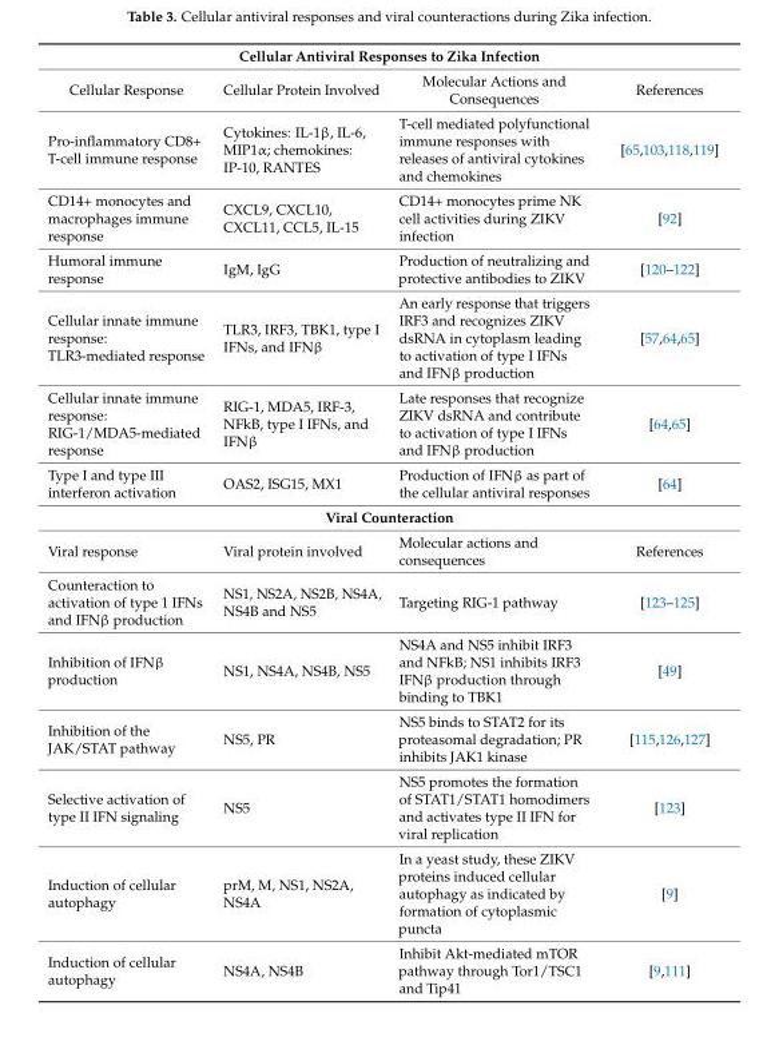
<table><tbody><tr><td colspan="4">Cellular Antiviral Responses to Zika Infection</td></tr><tr><td>Cellular Response</td><td>Cellular Protein Involved</td><td>Molecular Actions and Consequences</td><td>References</td></tr><tr><td>Pro-inflammatory CD8+ T-cell immune response</td><td>Cytokines: IL-1β, IL-6, MIP1α; chemokines: IP-10, RANTES</td><td>T-cell mediated polyfunctional immune responses with releases of antiviral cytokines and chemokines</td><td>[65,103,118,119]</td></tr><tr><td>CD14+ monocytes and macrophages immune response</td><td>CXCL9, CXCL10, CXCL11, CCL5, IL-15</td><td>CD14+ monocytes prime NK cell activities during ZIKV infection</td><td>[92]</td></tr><tr><td>Humoral immune response</td><td>IgM, IgG</td><td>Production of neutralizing and protective antibodies to ZIKV</td><td>[120–122]</td></tr><tr><td>Cellular innate immune response: TLR3-mediated response</td><td>TLR3, IRF3, TBK1, type I IFNs, and IFNβ</td><td>An early response that triggers IRF3 and recognizes ZIKV dsRNA in cytoplasm leading to activation of type I IFNs and IFNβ production</td><td>[57,64,65]</td></tr><tr><td>Cellular innate immune response: RIG-1/MDA5-mediated response</td><td>RIG-1, MDA5, IRF-3, NFkB, type I IFNs, and IFNβ</td><td>Late responses that recognize ZIKV dsRNA and contribute to activation of type I IFNs and IFNβ production</td><td>[64,65]</td></tr><tr><td>Type I and type III interferon activation</td><td>OAS2, ISG15, MX1</td><td>Production of IFNβ as part of the cellular antiviral responses</td><td>[64]</td></tr><tr><td colspan="4">Viral Counteraction</td></tr><tr><td>Viral response</td><td>Viral protein involved</td><td>Molecular actions and consequences</td><td>References</td></tr><tr><td>Counteraction to activation of type 1 IFNs and IFNβ production</td><td>NS1, NS2A, NS2B, NS4A, NS4B and NS5</td><td>Targeting RIG-1 pathway</td><td>[123–125]</td></tr><tr><td>Inhibition of IFNβ production</td><td>NS1, NS4A, NS4B, NS5</td><td>NS4A and NS5 inhibit IRF3 and NFkB; NS1 inhibits IRF3 IFNβ production through binding to TBK1</td><td>[49]</td></tr><tr><td>Inhibition of the JAK/STAT pathway</td><td>NS5, PR</td><td>NS5 binds to STAT2 for its proteasomal degradation; PR inhibits JAK1 kinase</td><td>[115,126,127]</td></tr><tr><td>Selective activation of type II IFN signaling</td><td>NS5</td><td>NS5 promotes the formation of STAT1/STAT1 homodimers and activates type II IFN for viral replication</td><td>[123]</td></tr><tr><td>Induction of cellular autophagy</td><td>prM, M, NS1, NS2A, NS4A</td><td>In a yeast study, these ZIKV proteins induced cellular autophagy as indicated by formation of cytoplasmic puncta</td><td>[9]</td></tr><tr><td>Induction of cellular autophagy</td><td>NS4A, NS4B</td><td>Inhibit Akt-mediated mTOR pathway through Tor1/TSC1 and Tip41</td><td>[9,111]</td></tr></tbody></table>